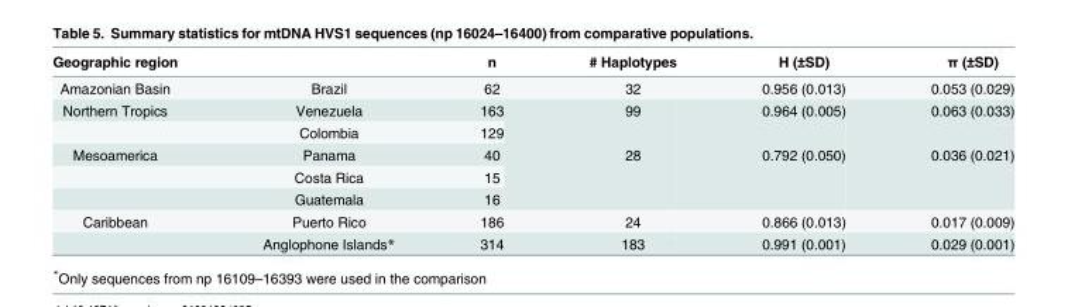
<table><thead><tr><td>Geographic region</td><td></td><td>n</td><td># Haplotypes</td><td>H (±SD)</td><td>π (±SD)</td></tr></thead><tbody><tr><td>Amazonian Basin</td><td>Brazil</td><td>62</td><td>32</td><td>0.956 (0.013)</td><td>0.053 (0.029)</td></tr><tr><td rowspan="2">Northern Tropics</td><td>Venezuela</td><td>163</td><td rowspan="2">99</td><td rowspan="2">0.964 (0.005)</td><td rowspan="2">0.063 (0.033)</td></tr><tr><td>Colombia</td><td>129</td></tr><tr><td rowspan="3">Mesoamerica</td><td>Panama</td><td>40</td><td rowspan="3">28</td><td rowspan="3">0.792 (0.050)</td><td rowspan="3">0.036 (0.021)</td></tr><tr><td>Costa Rica</td><td>15</td></tr><tr><td>Guatemala</td><td>16</td></tr><tr><td rowspan="2">Caribbean</td><td>Puerto Rico</td><td>186</td><td>24</td><td>0.866 (0.013)</td><td>0.017 (0.009)</td></tr><tr><td>Anglophone Islands*</td><td>314</td><td>183</td><td>0.991 (0.001)</td><td>0.029 (0.001)</td></tr></tbody></table>